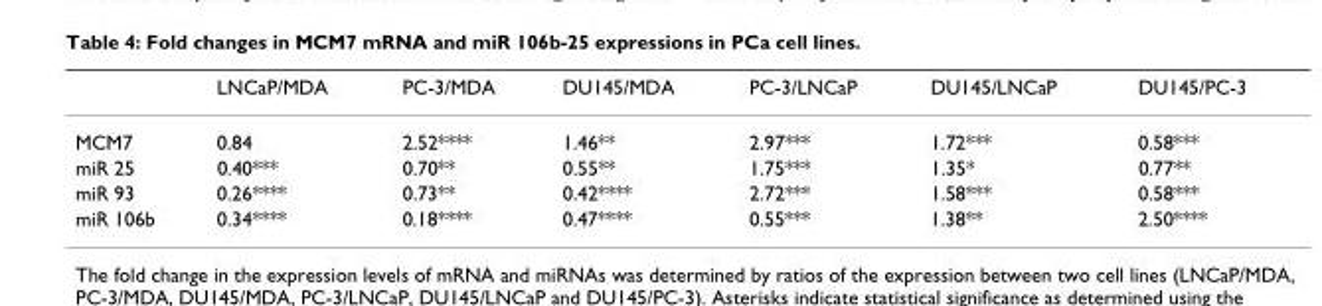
<table><thead><tr><td></td><td>LNCaP/MDA</td><td>PC-3/MDA</td><td>DU145/MDA</td><td>PC-3/LNCaP</td><td>DU145/LNCaP</td><td>DU145/PC-3</td></tr></thead><tbody><tr><td>MCM7</td><td>0.84</td><td>2.52****</td><td>1.46**</td><td>2.97***</td><td>1.72***</td><td>0.58***</td></tr><tr><td>miR 25</td><td>0.40***</td><td>0.70**</td><td>0.55**</td><td>1.75***</td><td>1.35*</td><td>0.77**</td></tr><tr><td>miR 93</td><td>0.26****</td><td>0.73**</td><td>0.42****</td><td>2.72***</td><td>1.58***</td><td>0.58***</td></tr><tr><td>miR 106b</td><td>0.34****</td><td>0.18****</td><td>0.47****</td><td>0.55***</td><td>1.38**</td><td>2.50****</td></tr></tbody></table>